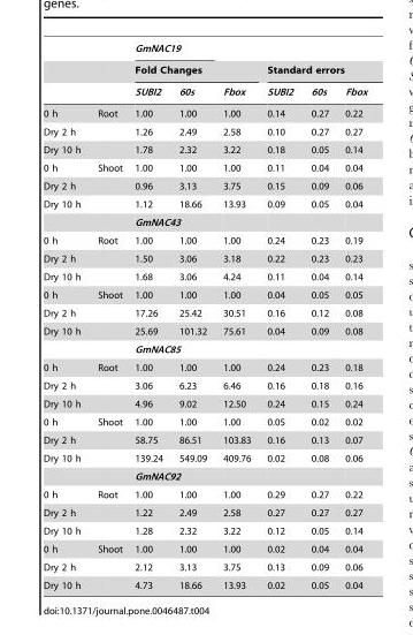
<table><thead><tr><td rowspan="3"></td><td rowspan="3"></td><td colspan="2">GmNAC19</td><td></td><td></td><td></td><td></td></tr><tr><td colspan="3">Fold Changes</td><td colspan="3">Standard errors</td></tr><tr><td>SUBI2</td><td>60s</td><td>Fbox</td><td>SUBI2</td><td>60s</td><td>Fbox</td></tr></thead><tbody><tr><td>0 h</td><td>Root</td><td>1.00</td><td>1.00</td><td>1.00</td><td>0.14</td><td>0.27</td><td>0.22</td></tr><tr><td>Dry 2 h</td><td></td><td>1.26</td><td>2.49</td><td>2.58</td><td>0.10</td><td>0.27</td><td>0.27</td></tr><tr><td>Dry 10 h</td><td></td><td>1.78</td><td>2.32</td><td>3.22</td><td>0.18</td><td>0.05</td><td>0.14</td></tr><tr><td>0 h</td><td>Shoot</td><td>1.00</td><td>1.00</td><td>1.00</td><td>0.11</td><td>0.04</td><td>0.04</td></tr><tr><td>Dry 2 h</td><td></td><td>0.96</td><td>3.13</td><td>3.75</td><td>0.15</td><td>0.09</td><td>0.06</td></tr><tr><td rowspan="2">Dry 10 h</td><td></td><td>1.12</td><td>18.66</td><td>13.93</td><td>0.09</td><td>0.05</td><td>0.04</td></tr><tr><td></td><td colspan="2">GmNAC43</td><td></td><td></td><td></td><td></td></tr><tr><td>0 h</td><td>Root</td><td>1.00</td><td>1.00</td><td>1.00</td><td>0.24</td><td>0.23</td><td>0.19</td></tr><tr><td>Dry 2 h</td><td></td><td>1.50</td><td>3.06</td><td>3.18</td><td>0.22</td><td>0.23</td><td>0.23</td></tr><tr><td>Dry 10 h</td><td></td><td>1.68</td><td>3.06</td><td>4.24</td><td>0.11</td><td>0.04</td><td>0.14</td></tr><tr><td>0 h</td><td>Shoot</td><td>1.00</td><td>1.00</td><td>1.00</td><td>0.04</td><td>0.05</td><td>0.05</td></tr><tr><td>Dry 2 h</td><td></td><td>17.26</td><td>25.42</td><td>30.51</td><td>0.16</td><td>0.12</td><td>0.08</td></tr><tr><td rowspan="2">Dry 10 h</td><td></td><td>25.69</td><td>101.32</td><td>75.61</td><td>0.04</td><td>0.09</td><td>0.08</td></tr><tr><td></td><td colspan="2">GmNAC85</td><td></td><td></td><td></td><td></td></tr><tr><td>0 h</td><td>Root</td><td>1.00</td><td>1.00</td><td>1.00</td><td>0.24</td><td>0.23</td><td>0.18</td></tr><tr><td>Dry 2 h</td><td></td><td>3.06</td><td>6.23</td><td>6.46</td><td>0.16</td><td>0.18</td><td>0.16</td></tr><tr><td>Dry 10 h</td><td></td><td>4.96</td><td>9.02</td><td>12.50</td><td>0.24</td><td>0.15</td><td>0.24</td></tr><tr><td>0 h</td><td>Shoot</td><td>1.00</td><td>1.00</td><td>1.00</td><td>0.05</td><td>0.02</td><td>0.02</td></tr><tr><td>Dry 2 h</td><td></td><td>58.75</td><td>86.51</td><td>103.83</td><td>0.16</td><td>0.13</td><td>0.07</td></tr><tr><td rowspan="2">Dry 10 h</td><td></td><td>139.24</td><td>549.09</td><td>409.76</td><td>0.02</td><td>0.08</td><td>0.06</td></tr><tr><td></td><td colspan="2">GmNAC92</td><td></td><td></td><td></td><td></td></tr><tr><td>0 h</td><td>Root</td><td>1.00</td><td>1.00</td><td>1.00</td><td>0.29</td><td>0.27</td><td>0.22</td></tr><tr><td>Dry 2 h</td><td></td><td>1.22</td><td>2.49</td><td>2.58</td><td>0.27</td><td>0.27</td><td>0.27</td></tr><tr><td>Dry 10 h</td><td></td><td>1.28</td><td>2.32</td><td>3.22</td><td>0.12</td><td>0.05</td><td>0.14</td></tr><tr><td>0 h</td><td>Shoot</td><td>1.00</td><td>1.00</td><td>1.00</td><td>0.02</td><td>0.04</td><td>0.04</td></tr><tr><td>Dry 2 h</td><td></td><td>2.12</td><td>3.13</td><td>3.75</td><td>0.13</td><td>0.09</td><td>0.06</td></tr><tr><td>Dry 10 h</td><td></td><td>4.73</td><td>18.66</td><td>13.93</td><td>0.02</td><td>0.05</td><td>0.04</td></tr></tbody></table>